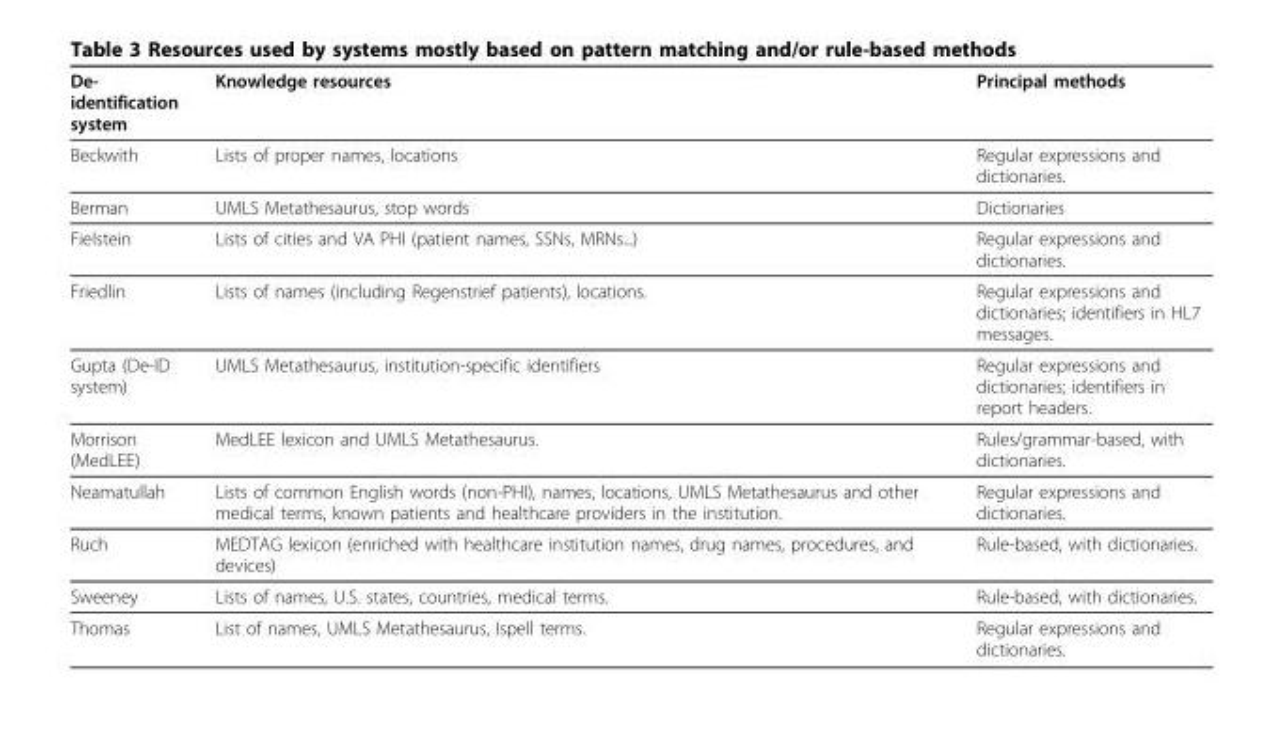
<table><thead><tr><td>De- identification system</td><td>Knowledge resources</td><td>Principal methods</td></tr></thead><tbody><tr><td>Beckwith</td><td>Lists of proper names, locations</td><td>Regular expressions and dictionaries.</td></tr><tr><td>Berman</td><td>UMLS Metathesaurus, stop words</td><td>Dictionaries</td></tr><tr><td>Fielstein</td><td>Lists of cities and VA PHI (patient names, SSNs, MRNs...)</td><td>Regular expressions and dictionaries.</td></tr><tr><td>Friedlin</td><td>Lists of names (including Regenstrief patients), locations.</td><td>Regular expressions and dictionaries; identifiers in HL7 messages.</td></tr><tr><td>Gupta (De-ID system)</td><td>UMLS Metathesaurus, institution-specific identifiers</td><td>Regular expressions and dictionaries; identifiers in report headers.</td></tr><tr><td>Morrison (MedLEE)</td><td>MedLEE lexicon and UMLS Metathesaurus.</td><td>Rules/grammar-based, with dictionaries.</td></tr><tr><td>Neamatullah</td><td>Lists of common English words (non-PHI), names, locations, UMLS Metathesaurus and other medical terms, known patients and healthcare providers in the institution.</td><td>Regular expressions and dictionaries.</td></tr><tr><td>Ruch</td><td>MEDTAG lexicon (enriched with healthcare institution names, drug names, procedures, and devices)</td><td>Rule-based, with dictionaries.</td></tr><tr><td>Sweeney</td><td>Lists of names, U.S. states, countries, medical terms.</td><td>Rule-based, with dictionaries.</td></tr><tr><td>Thomas</td><td>List of names, UMLS Metathesaurus, Ispell terms.</td><td>Regular expressions and dictionaries.</td></tr></tbody></table>